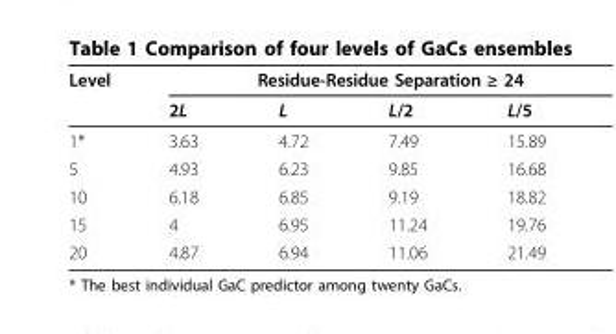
<table><thead><tr><td rowspan="2">Level</td><td colspan="4">Residue-Residue Separation ≥ 24</td></tr><tr><td>2L</td><td>L</td><td>L/2</td><td>L/5</td></tr></thead><tbody><tr><td>1*</td><td>3.63</td><td>4.72</td><td>7.49</td><td>15.89</td></tr><tr><td>5</td><td>4.93</td><td>6.23</td><td>9.85</td><td>16.68</td></tr><tr><td>10</td><td>6.18</td><td>6.85</td><td>9.19</td><td>18.82</td></tr><tr><td>15</td><td>4</td><td>6.95</td><td>11.24</td><td>19.76</td></tr><tr><td>20</td><td>4.87</td><td>6.94</td><td>11.06</td><td>21.49</td></tr></tbody></table>